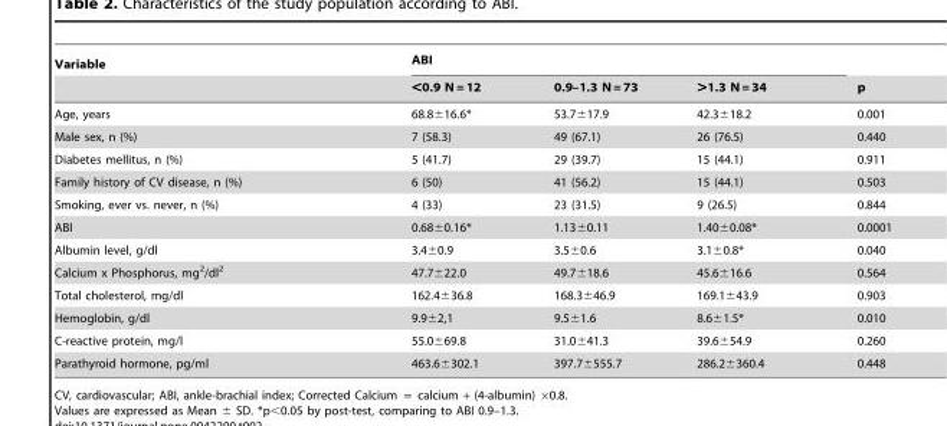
<table><thead><tr><td rowspan="2">Variable</td><td colspan="3">ABI</td><td rowspan="2">p</td></tr><tr><td>&lt;0.9 N = 12</td><td>0.9–1.3 N = 73</td><td>&gt;1.3 N = 34</td></tr></thead><tbody><tr><td>Age, years</td><td>68.8±16.6*</td><td>53.7±17.9</td><td>42.3±18.2</td><td>0.001</td></tr><tr><td>Male sex, n (%)</td><td>7 (58.3)</td><td>49 (67.1)</td><td>26 (76.5)</td><td>0.440</td></tr><tr><td>Diabetes mellitus, n (%)</td><td>5 (41.7)</td><td>29 (39.7)</td><td>15 (44.1)</td><td>0.911</td></tr><tr><td>Family history of CV disease, n (%)</td><td>6 (50)</td><td>41 (56.2)</td><td>15 (44.1)</td><td>0.503</td></tr><tr><td>Smoking, ever vs. never, n (%)</td><td>4 (33)</td><td>23 (31.5)</td><td>9 (26.5)</td><td>0.844</td></tr><tr><td>ABI</td><td>0.68±0.16*</td><td>1.13±0.11</td><td>1.40±0.08*</td><td>0.0001</td></tr><tr><td>Albumin level, g/dl</td><td>3.4±0.9</td><td>3.5±0.6</td><td>3.1±0.8*</td><td>0.040</td></tr><tr><td>Calcium x Phosphorus, mg<sup>2</sup>/dl<sup>2</sup></td><td>47.7±22.0</td><td>49.7±18.6</td><td>45.6±16.6</td><td>0.564</td></tr><tr><td>Total cholesterol, mg/dl</td><td>162.4±36.8</td><td>168.3±46.9</td><td>169.1±43.9</td><td>0.903</td></tr><tr><td>Hemoglobin, g/dl</td><td>9.9±2,1</td><td>9.5±1.6</td><td>8.6±1.5*</td><td>0.010</td></tr><tr><td>C-reactive protein, mg/l</td><td>55.0±69.8</td><td>31.0±41.3</td><td>39.6±54.9</td><td>0.260</td></tr><tr><td>Parathyroid hormone, pg/ml</td><td>463.6±302.1</td><td>397.7±555.7</td><td>286.2±360.4</td><td>0.448</td></tr></tbody></table>